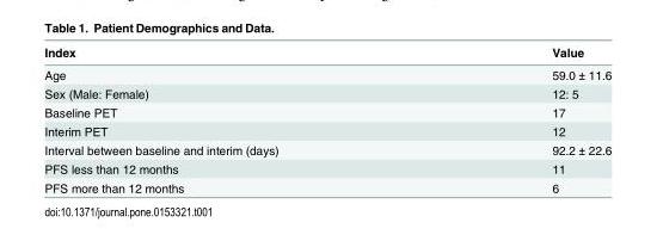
<table><thead><tr><td>Index</td><td>Value</td></tr></thead><tbody><tr><td>Age</td><td>59.0 ± 11.6</td></tr><tr><td>Sex (Male: Female)</td><td>12: 5</td></tr><tr><td>Baseline PET</td><td>17</td></tr><tr><td>Interim PET</td><td>12</td></tr><tr><td>Interval between baseline and interim (days)</td><td>92.2 ± 22.6</td></tr><tr><td>PFS less than 12 months</td><td>11</td></tr><tr><td>PFS more than 12 months</td><td>6</td></tr></tbody></table>